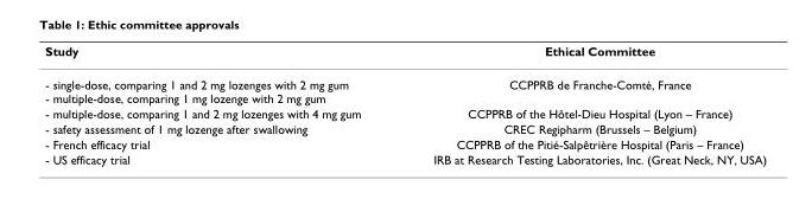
<table><thead><tr><td>Study</td><td>Ethical Committee</td></tr></thead><tbody><tr><td>- single-dose, comparing 1 and 2 mg lozenges with 2 mg gum - multiple-dose, comparing 1 mg lozenge with 2 mg gum</td><td>CCPPRB de Franche-Comté, France</td></tr><tr><td>- multiple-dose, comparing 1 and 2 mg lozenges with 4 mg gum</td><td>CCPPRB of the Hôtel-Dieu Hospital (Lyon – France)</td></tr><tr><td>- safety assessment of 1 mg lozenge after swallowing</td><td>CREC Regipharm (Brussels – Belgium)</td></tr><tr><td>- French efficacy trial</td><td>CCPPRB of the Pitié-Salpêtrière Hospital (Paris – France)</td></tr><tr><td>- US efficacy trial</td><td>IRB at Research Testing Laboratories, Inc. (Great Neck, NY, USA)</td></tr></tbody></table>